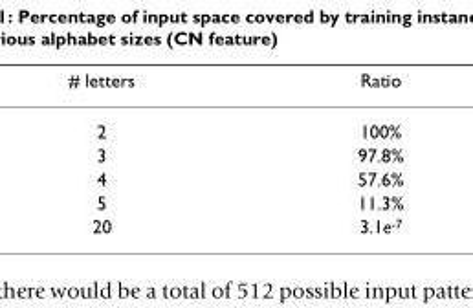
<table><thead><tr><td># letters</td><td>Ratio</td></tr></thead><tbody><tr><td>2</td><td>100%</td></tr><tr><td>3</td><td>97.8%</td></tr><tr><td>4</td><td>57.6%</td></tr><tr><td>5</td><td>11.3%</td></tr><tr><td>20</td><td>3.1e<sup>-7</sup></td></tr></tbody></table>